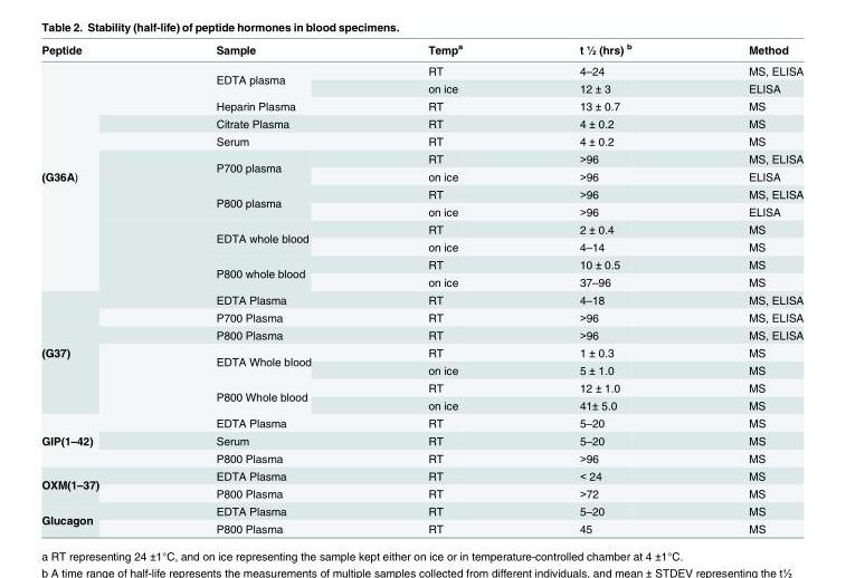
<table><thead><tr><td>Peptide</td><td>Sample</td><td>Temp<sup>a</sup></td><td>t ½ (hrs) <sup>b</sup></td><td>Method</td></tr></thead><tbody><tr><td rowspan="13">(G36A)</td><td rowspan="2">EDTA plasma</td><td>RT</td><td>4–24</td><td>MS, ELISA</td></tr><tr><td>on ice</td><td>12 ± 3</td><td>ELISA</td></tr><tr><td>Heparin Plasma</td><td>RT</td><td>13 ± 0.7</td><td>MS</td></tr><tr><td>Citrate Plasma</td><td>RT</td><td>4 ± 0.2</td><td>MS</td></tr><tr><td>Serum</td><td>RT</td><td>4 ± 0.2</td><td>MS</td></tr><tr><td rowspan="2">P700 plasma</td><td>RT</td><td>&gt;96</td><td>MS, ELISA</td></tr><tr><td>on ice</td><td>&gt;96</td><td>ELISA</td></tr><tr><td rowspan="2">P800 plasma</td><td>RT</td><td>&gt;96</td><td>MS, ELISA</td></tr><tr><td>on ice</td><td>&gt;96</td><td>ELISA</td></tr><tr><td rowspan="2">EDTA whole blood</td><td>RT</td><td>2 ± 0.4</td><td>MS</td></tr><tr><td>on ice</td><td>4–14</td><td>MS</td></tr><tr><td rowspan="2">P800 whole blood</td><td>RT</td><td>10 ± 0.5</td><td>MS</td></tr><tr><td>on ice</td><td>37–96</td><td>MS</td></tr><tr><td rowspan="7">(G37)</td><td>EDTA Plasma</td><td>RT</td><td>4–18</td><td>MS, ELISA</td></tr><tr><td>P700 Plasma</td><td>RT</td><td>&gt;96</td><td>MS, ELISA</td></tr><tr><td>P800 Plasma</td><td>RT</td><td>&gt;96</td><td>MS, ELISA</td></tr><tr><td rowspan="2">EDTA Whole blood</td><td>RT</td><td>1 ± 0.3</td><td>MS</td></tr><tr><td>on ice</td><td>5 ± 1.0</td><td>MS</td></tr><tr><td rowspan="2">P800 Whole blood</td><td>RT</td><td>12 ± 1.0</td><td>MS</td></tr><tr><td>on ice</td><td>41± 5.0</td><td>MS</td></tr><tr><td rowspan="3">GIP(1–42)</td><td>EDTA Plasma</td><td>RT</td><td>5–20</td><td>MS</td></tr><tr><td>Serum</td><td>RT</td><td>5–20</td><td>MS</td></tr><tr><td>P800 Plasma</td><td>RT</td><td>&gt;96</td><td>MS</td></tr><tr><td rowspan="2">OXM(1–37)</td><td>EDTA Plasma</td><td>RT</td><td>&lt; 24</td><td>MS</td></tr><tr><td>P800 Plasma</td><td>RT</td><td>&gt;72</td><td>MS</td></tr><tr><td rowspan="2">Glucagon</td><td>EDTA Plasma</td><td>RT</td><td>5–20</td><td>MS</td></tr><tr><td>P800 Plasma</td><td>RT</td><td>45</td><td>MS</td></tr></tbody></table>